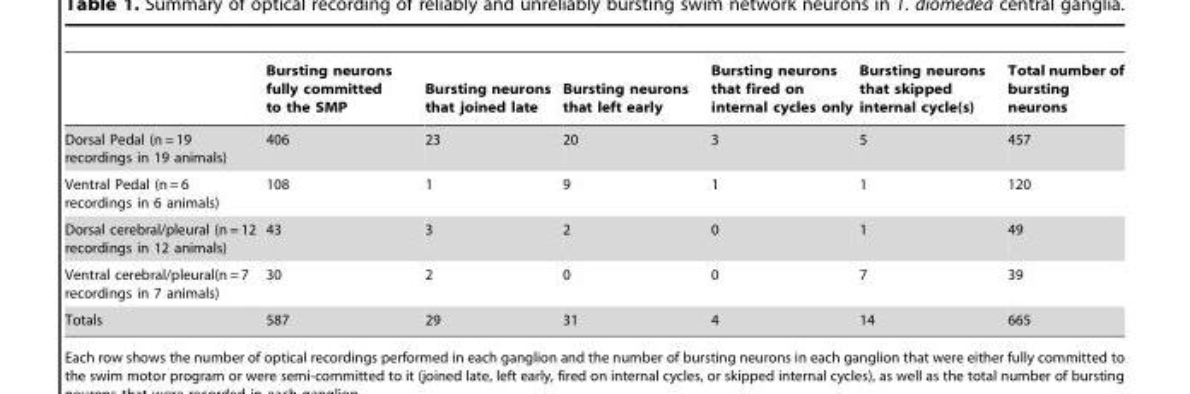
<table><thead><tr><td></td><td>Bursting neurons fully committed to the SMP</td><td>Bursting neurons that joined late</td><td>Bursting neurons that left early</td><td>Bursting neurons that fired on internal cycles only</td><td>Bursting neurons that skipped internal cycle(s)</td><td>Total number of bursting neurons</td></tr></thead><tbody><tr><td>Dorsal Pedal (n = 19 recordings in 19 animals)</td><td>406</td><td>23</td><td>20</td><td>3</td><td>5</td><td>457</td></tr><tr><td>Ventral Pedal (n = 6 recordings in 6 animals)</td><td>108</td><td>1</td><td>9</td><td>1</td><td>1</td><td>120</td></tr><tr><td>Dorsal cerebral/pleural (n = 12 recordings in 12 animals)</td><td>43</td><td>3</td><td>2</td><td>0</td><td>1</td><td>49</td></tr><tr><td>Ventral cerebral/pleural(n = 7 recordings in 7 animals)</td><td>30</td><td>2</td><td>0</td><td>0</td><td>7</td><td>39</td></tr><tr><td>Totals</td><td>587</td><td>29</td><td>31</td><td>4</td><td>14</td><td>665</td></tr></tbody></table>